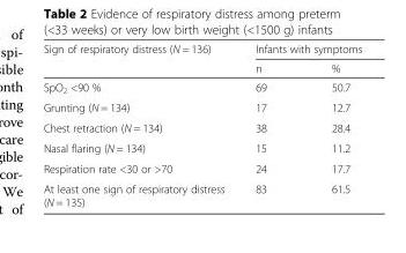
<table><thead><tr><td rowspan="2">Sign of respiratory distress (N = 136)</td><td colspan="2">Infants with symptoms</td></tr><tr><td>n</td><td>%</td></tr></thead><tbody><tr><td>SpO<sub>2</sub> &lt;90 %</td><td>69</td><td>50.7</td></tr><tr><td>Grunting (N = 134)</td><td>17</td><td>12.7</td></tr><tr><td>Chest retraction (N = 134)</td><td>38</td><td>28.4</td></tr><tr><td>Nasal flaring (N = 134)</td><td>15</td><td>11.2</td></tr><tr><td>Respiration rate &lt;30 or &gt;70</td><td>24</td><td>17.7</td></tr><tr><td>At least one sign of respiratory distress (N = 135)</td><td>83</td><td>61.5</td></tr></tbody></table>